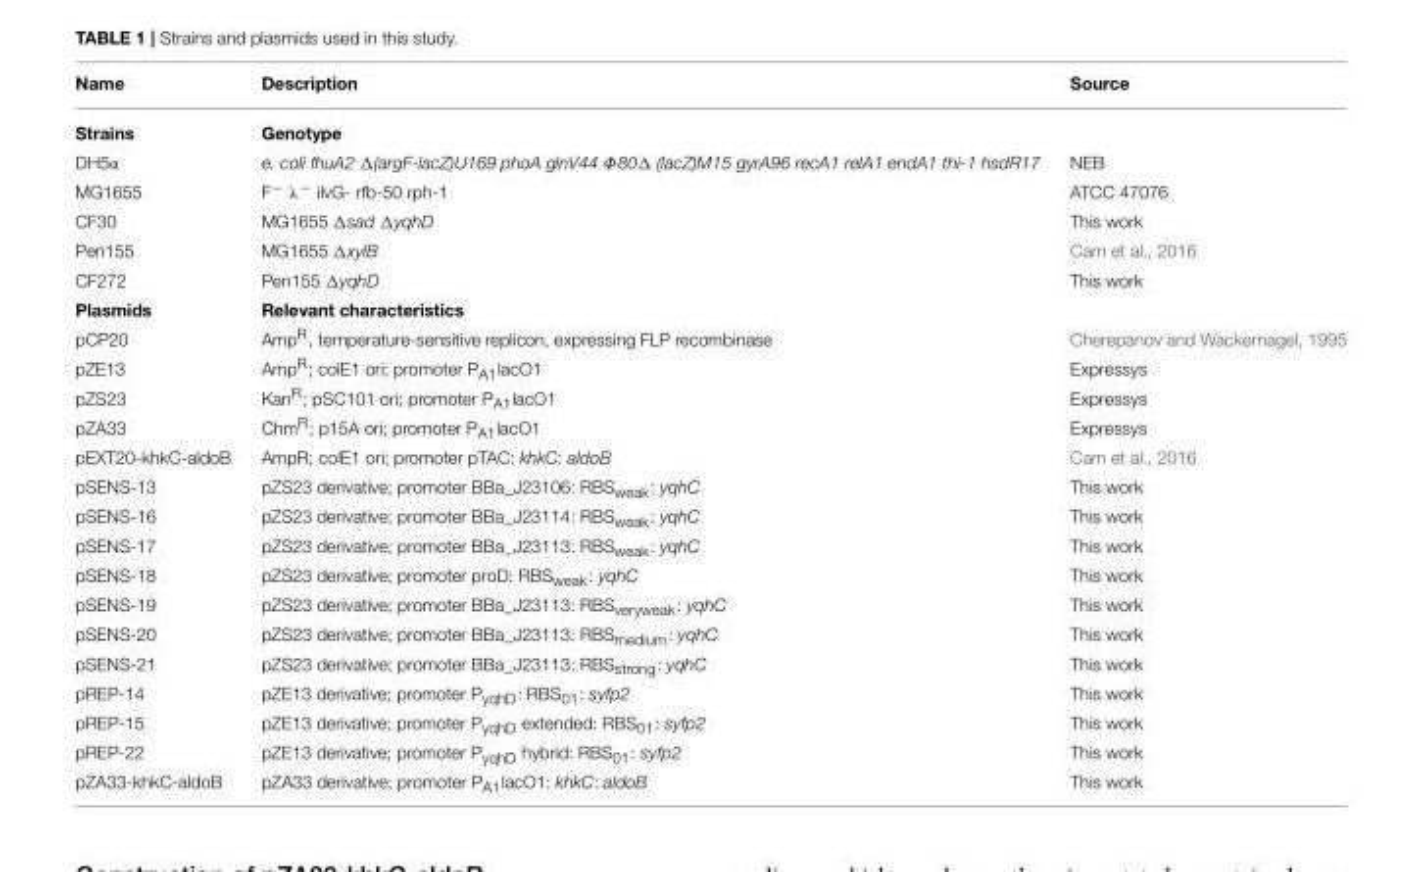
<table><thead><tr><td>Name</td><td>Description</td><td>Source</td></tr></thead><tbody><tr><td>Strains</td><td>Genotype</td><td></td></tr><tr><td>DH5α</td><td>e. coli fhuA2 Δ(argF-lacZ)U169 phoA glnV44 Φ80Δ (lacZ)M15 gyrA96 recA1 relA1 endA1 thi-1 hsdR17</td><td>NEB</td></tr><tr><td>MG1655</td><td>F<sup>−</sup> λ<sup>−</sup> ilvG- rfb-50 rph-1</td><td>ATCC 47076</td></tr><tr><td>CF30</td><td>MG1655 Δsad ΔyqhD</td><td>This work</td></tr><tr><td>Pen155</td><td>MG1655 ΔxylB</td><td>Cam et al., 2016</td></tr><tr><td>CF272</td><td>Pen155 ΔyqhD</td><td>This work</td></tr><tr><td>Plasmids</td><td>Relevant characteristics</td><td></td></tr><tr><td>pCP20</td><td>Amp<sup>R</sup>, temperature-sensitive replicon, expressing FLP recombinase</td><td>Cherepanov and Wackernagel, 1995</td></tr><tr><td>pZE13</td><td>Amp<sup>R</sup>; colE1 ori; promoter P<sub>A1</sub>lacO1</td><td>Expressys</td></tr><tr><td>pZS23</td><td>Kan<sup>R</sup>; pSC101 ori; promoter P<sub>A1</sub>lacO1</td><td>Expressys</td></tr><tr><td>pZA33</td><td>Chm<sup>R</sup>; p15A ori; promoter P<sub>A1</sub>lacO1</td><td>Expressys</td></tr><tr><td>pEXT20-khkC-aldoB</td><td>AmpR; colE1 ori; promoter pTAC: khkC: aldoB</td><td>Cam et al., 2016</td></tr><tr><td>pSENS-13</td><td>pZS23 derivative; promoter BBa_J23106: RBS<sub>weak</sub>: yqhC</td><td>This work</td></tr><tr><td>pSENS-16</td><td>pZS23 derivative; promoter BBa_J23114: RBS<sub>weak</sub>: yqhC</td><td>This work</td></tr><tr><td>pSENS-17</td><td>pZS23 derivative; promoter BBa_J23113: RBS<sub>weak</sub>: yqhC</td><td>This work</td></tr><tr><td>pSENS-18</td><td>pZS23 derivative; promoter proD: RBS<sub>weak</sub>: yqhC</td><td>This work</td></tr><tr><td>pSENS-19</td><td>pZS23 derivative; promoter BBa_J23113: RBS<sub>veryweak</sub>: yqhC</td><td>This work</td></tr><tr><td>pSENS-20</td><td>pZS23 derivative; promoter BBa_J23113: RBS<sub>medium</sub>: yqhC</td><td>This work</td></tr><tr><td>pSENS-21</td><td>pZS23 derivative; promoter BBa_J23113: RBS<sub>strong</sub>: yqhC</td><td>This work</td></tr><tr><td>pREP-14</td><td>pZE13 derivative; promoter P<sub>yqhD</sub>: RBS<sub>01</sub>: syfp2</td><td>This work</td></tr><tr><td>pREP-15</td><td>pZE13 derivative; promoter P<sub>yqhD</sub> extended: RBS<sub>01</sub>: syfp2</td><td>This work</td></tr><tr><td>pREP-22</td><td>pZE13 derivative; promoter P<sub>yqhD</sub> hybrid: RBS<sub>01</sub>: syfp2</td><td>This work</td></tr><tr><td>pZA33-khkC-aldoB</td><td>pZA33 derivative; promoter P<sub>A1</sub>lacO1: khkC: aldoB</td><td>This work</td></tr></tbody></table>